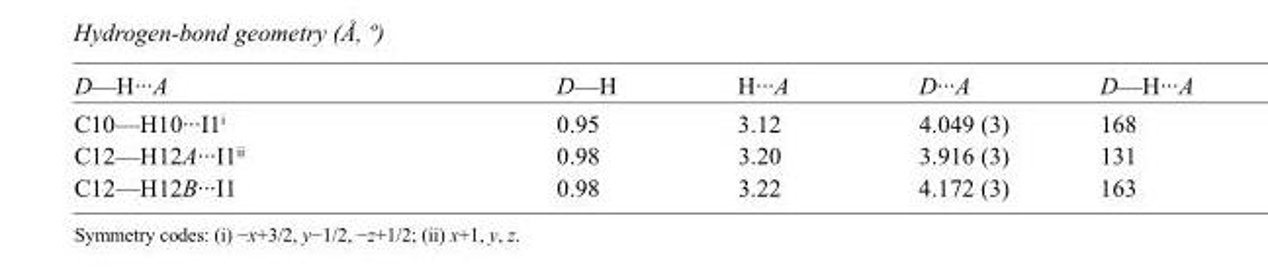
<table><tbody><tr><td>D—H···A</td><td>D—H</td><td>H···A</td><td>D···A</td><td>D—H···A</td></tr><tr><td>C10—H10···I1<sup>i</sup></td><td>0.95</td><td>3.12</td><td>4.049 (3)</td><td>168</td></tr><tr><td>C12—H12A···I1<sup>ii</sup></td><td>0.98</td><td>3.20</td><td>3.916 (3)</td><td>131</td></tr><tr><td>C12—H12B···I1</td><td>0.98</td><td>3.22</td><td>4.172 (3)</td><td>163</td></tr></tbody></table>